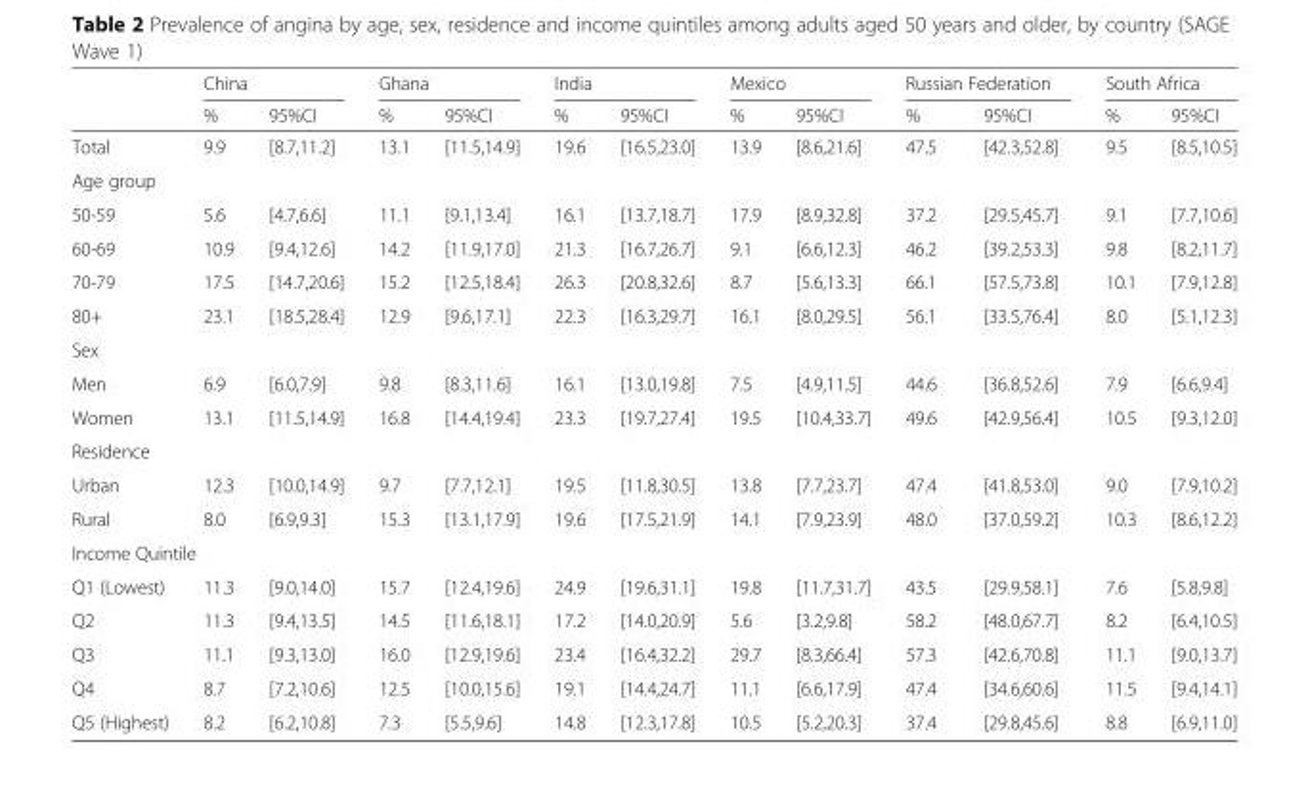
<table><thead><tr><td rowspan="2"></td><td colspan="2">China</td><td colspan="2">Ghana</td><td colspan="2">India</td><td colspan="2">Mexico</td><td colspan="2">Russian Federation</td><td colspan="2">South Africa</td></tr><tr><td>%</td><td>95%CI</td><td>%</td><td>95%CI</td><td>%</td><td>95%CI</td><td>%</td><td>95%CI</td><td>%</td><td>95%CI</td><td>%</td><td>95%CI</td></tr></thead><tbody><tr><td>Total</td><td>9.9</td><td>[8.7,11.2]</td><td>13.1</td><td>[11.5,14.9]</td><td>19.6</td><td>[16.5,23.0]</td><td>13.9</td><td>[8.6,21.6]</td><td>47.5</td><td>[42.3,52.8]</td><td>9.5</td><td>[8.5,10.5]</td></tr><tr><td colspan="13">Age group</td></tr><tr><td>50-59</td><td>5.6</td><td>[4.7,6.6]</td><td>11.1</td><td>[9.1,13.4]</td><td>16.1</td><td>[13.7,18.7]</td><td>17.9</td><td>[8.9,32.8]</td><td>37.2</td><td>[29.5,45.7]</td><td>9.1</td><td>[7.7,10.6]</td></tr><tr><td>60-69</td><td>10.9</td><td>[9.4,12.6]</td><td>14.2</td><td>[11.9,17.0]</td><td>21.3</td><td>[16.7,26.7]</td><td>9.1</td><td>[6.6,12.3]</td><td>46.2</td><td>[39.2,53.3]</td><td>9.8</td><td>[8.2,11.7]</td></tr><tr><td>70-79</td><td>17.5</td><td>[14.7,20.6]</td><td>15.2</td><td>[12.5,18.4]</td><td>26.3</td><td>[20.8,32.6]</td><td>8.7</td><td>[5.6,13.3]</td><td>66.1</td><td>[57.5,73.8]</td><td>10.1</td><td>[7.9,12.8]</td></tr><tr><td>80+</td><td>23.1</td><td>[18.5,28.4]</td><td>12.9</td><td>[9.6,17.1]</td><td>22.3</td><td>[16.3,29.7]</td><td>16.1</td><td>[8.0,29.5]</td><td>56.1</td><td>[33.5,76.4]</td><td>8.0</td><td>[5.1,12.3]</td></tr><tr><td colspan="13">Sex</td></tr><tr><td>Men</td><td>6.9</td><td>[6.0,7.9]</td><td>9.8</td><td>[8.3,11.6]</td><td>16.1</td><td>[13.0,19.8]</td><td>7.5</td><td>[4.9,11.5]</td><td>44.6</td><td>[36.8,52.6]</td><td>7.9</td><td>[6.6,9.4]</td></tr><tr><td>Women</td><td>13.1</td><td>[11.5,14.9]</td><td>16.8</td><td>[14.4,19.4]</td><td>23.3</td><td>[19.7,27.4]</td><td>19.5</td><td>[10.4,33.7]</td><td>49.6</td><td>[42.9,56.4]</td><td>10.5</td><td>[9.3,12.0]</td></tr><tr><td colspan="13">Residence</td></tr><tr><td>Urban</td><td>12.3</td><td>[10.0,14.9]</td><td>9.7</td><td>[7.7,12.1]</td><td>19.5</td><td>[11.8,30.5]</td><td>13.8</td><td>[7.7,23.7]</td><td>47.4</td><td>[41.8,53.0]</td><td>9.0</td><td>[7.9,10.2]</td></tr><tr><td>Rural</td><td>8.0</td><td>[6.9,9.3]</td><td>15.3</td><td>[13.1,17.9]</td><td>19.6</td><td>[17.5,21.9]</td><td>14.1</td><td>[7.9,23.9]</td><td>48.0</td><td>[37.0,59.2]</td><td>10.3</td><td>[8.6,12.2]</td></tr><tr><td colspan="13">Income Quintile</td></tr><tr><td>Q1 (Lowest)</td><td>11.3</td><td>[9.0,14.0]</td><td>15.7</td><td>[12.4,19.6]</td><td>24.9</td><td>[19.6,31.1]</td><td>19.8</td><td>[11.7,31.7]</td><td>43.5</td><td>[29.9,58.1]</td><td>7.6</td><td>[5.8,9.8]</td></tr><tr><td>Q2</td><td>11.3</td><td>[9.4,13.5]</td><td>14.5</td><td>[11.6,18.1]</td><td>17.2</td><td>[14.0,20.9]</td><td>5.6</td><td>[3.2,9.8]</td><td>58.2</td><td>[48.0,67.7]</td><td>8.2</td><td>[6.4,10.5]</td></tr><tr><td>Q3</td><td>11.1</td><td>[9.3,13.0]</td><td>16.0</td><td>[12.9,19.6]</td><td>23.4</td><td>[16.4,32.2]</td><td>29.7</td><td>[8.3,66.4]</td><td>57.3</td><td>[42.6,70.8]</td><td>11.1</td><td>[9.0,13.7]</td></tr><tr><td>Q4</td><td>8.7</td><td>[7.2,10.6]</td><td>12.5</td><td>[10.0,15.6]</td><td>19.1</td><td>[14.4,24.7]</td><td>11.1</td><td>[6.6,17.9]</td><td>47.4</td><td>[34.6,60.6]</td><td>11.5</td><td>[9.4,14.1]</td></tr><tr><td>Q5 (Highest)</td><td>8.2</td><td>[6.2,10.8]</td><td>7.3</td><td>[5.5,9.6]</td><td>14.8</td><td>[12.3,17.8]</td><td>10.5</td><td>[5.2,20.3]</td><td>37.4</td><td>[29.8,45.6]</td><td>8.8</td><td>[6.9,11.0]</td></tr></tbody></table>